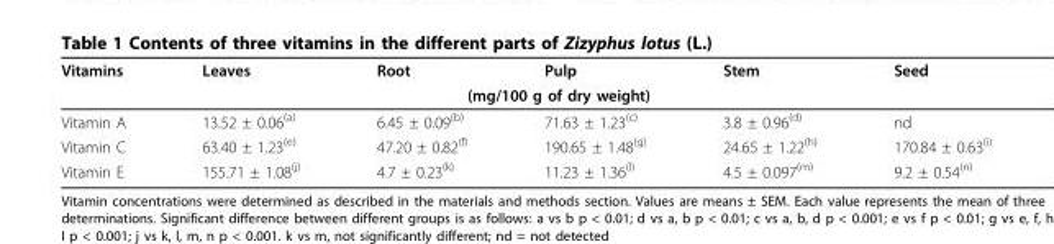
<table><thead><tr><td>Vitamins</td><td>Leaves</td><td>Root</td><td>Pulp</td><td>Stem</td><td>Seed</td></tr><tr><td colspan="6">(mg/100 g of dry weight)</td></tr></thead><tbody><tr><td>Vitamin A</td><td>13.52 ± 0.06<sup>(a)</sup></td><td>6.45 ± 0.09<sup>(b)</sup></td><td>71.63 ± 1.23<sup>(c)</sup></td><td>3.8 ± 0.96<sup>(d)</sup></td><td>nd</td></tr><tr><td>Vitamin C</td><td>63.40 ± 1.23<sup>(e)</sup></td><td>47.20 ± 0.82<sup>(f)</sup></td><td>190.65 ± 1.48<sup>(g)</sup></td><td>24.65 ± 1.22<sup>(h)</sup></td><td>170.84 ± 0.63<sup>(i)</sup></td></tr><tr><td>Vitamin E</td><td>155.71 ± 1.08<sup>(j)</sup></td><td>4.7 ± 0.23<sup>(k)</sup></td><td>11.23 ± 1.36<sup>(l)</sup></td><td>4.5 ± 0.097<sup>(m)</sup></td><td>9.2 ± 0.54<sup>(n)</sup></td></tr></tbody></table>